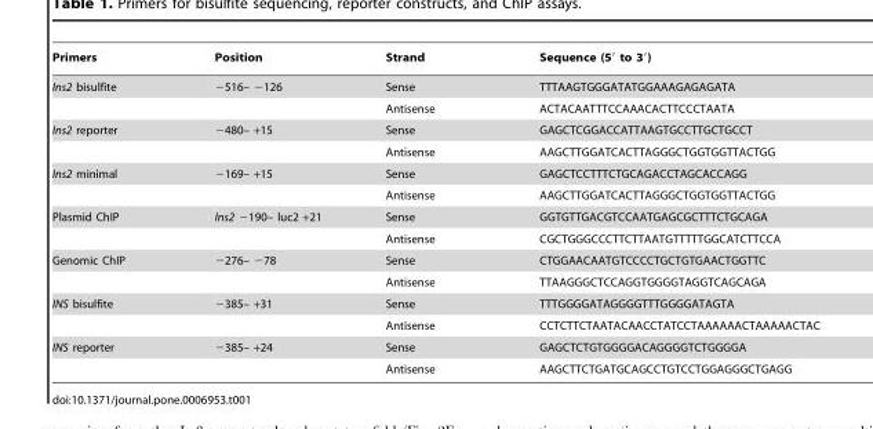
<table><thead><tr><td>Primers</td><td>Position</td><td>Strand</td><td>Sequence (5′ to 3′)</td></tr></thead><tbody><tr><td rowspan="2">Ins2 bisulfite</td><td>−516– −126</td><td>Sense</td><td>TTTAAGTGGGATATGGAAAGAGAGATA</td></tr><tr><td></td><td>Antisense</td><td>ACTACAATTTCCAAACACTTCCCTAATA</td></tr><tr><td rowspan="2">Ins2 reporter</td><td>−480– +15</td><td>Sense</td><td>GAGCTCGGACCATTAAGTGCCTTGCTGCCT</td></tr><tr><td></td><td>Antisense</td><td>AAGCTTGGATCACTTAGGGCTGGTGGTTACTGG</td></tr><tr><td rowspan="2">Ins2 minimal</td><td>−169– +15</td><td>Sense</td><td>GAGCTCCTTTCTGCAGACCTAGCACCAGG</td></tr><tr><td></td><td>Antisense</td><td>AAGCTTGGATCACTTAGGGCTGGTGGTTACTGG</td></tr><tr><td rowspan="2">Plasmid ChIP</td><td>Ins2 −190– luc2 +21</td><td>Sense</td><td>GGTGTTGACGTCCAATGAGCGCTTTCTGCAGA</td></tr><tr><td></td><td>Antisense</td><td>CGCTGGGCCCTTCTTAATGTTTTTGGCATCTTCCA</td></tr><tr><td rowspan="2">Genomic ChIP</td><td>−276– −78</td><td>Sense</td><td>CTGGAACAATGTCCCCTGCTGTGAACTGGTTC</td></tr><tr><td></td><td>Antisense</td><td>TTAAGGGCTCCAGGTGGGGTAGGTCAGCAGA</td></tr><tr><td rowspan="2">INS bisulfite</td><td>−385– +31</td><td>Sense</td><td>TTTGGGGATAGGGGTTTGGGGATAGTA</td></tr><tr><td></td><td>Antisense</td><td>CCTCTTCTAATACAACCTATCCTAAAAAACTAAAAACTAC</td></tr><tr><td rowspan="2">INS reporter</td><td>−385– +24</td><td>Sense</td><td>GAGCTCTGTGGGGACAGGGGTCTGGGGA</td></tr><tr><td></td><td>Antisense</td><td>AAGCTTCTGATGCAGCCTGTCCTGGAGGGCTGAGG</td></tr></tbody></table>